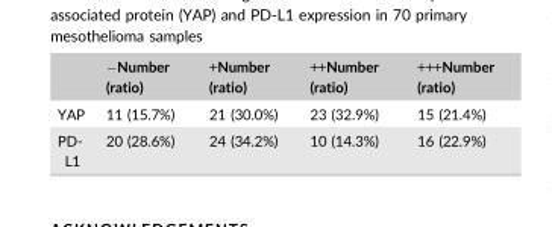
<table><thead><tr><td></td><td>−Number (ratio)</td><td>+Number (ratio)</td><td>++Number (ratio)</td><td>+++Number (ratio)</td></tr></thead><tbody><tr><td>YAP</td><td>11 (15.7%)</td><td>21 (30.0%)</td><td>23 (32.9%)</td><td>15 (21.4%)</td></tr><tr><td>PD- L1</td><td>20 (28.6%)</td><td>24 (34.2%)</td><td>10 (14.3%)</td><td>16 (22.9%)</td></tr></tbody></table>